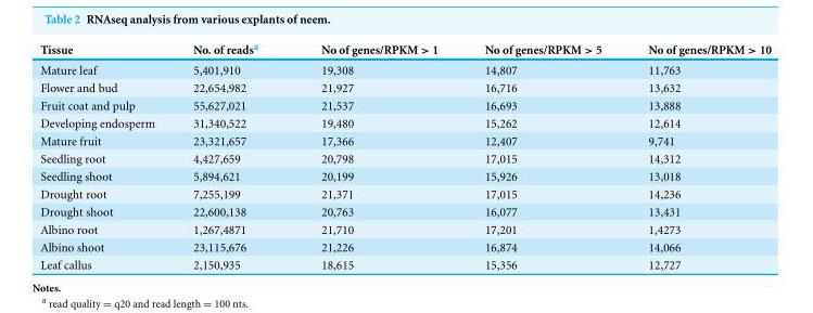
<table><thead><tr><td>Tissue</td><td>No. of reads<sup>a</sup></td><td>No of genes/RPKM &gt; 1</td><td>No of genes/RPKM &gt; 5</td><td>No of genes/RPKM &gt; 10</td></tr></thead><tbody><tr><td>Mature leaf</td><td>5,401,910</td><td>19,308</td><td>14,807</td><td>11,763</td></tr><tr><td>Flower and bud</td><td>22,654,982</td><td>21,927</td><td>16,716</td><td>13,632</td></tr><tr><td>Fruit coat and pulp</td><td>55,627,021</td><td>21,537</td><td>16,693</td><td>13,888</td></tr><tr><td>Developing endosperm</td><td>31,340,522</td><td>19,480</td><td>15,262</td><td>12,614</td></tr><tr><td>Mature fruit</td><td>23,321,657</td><td>17,366</td><td>12,407</td><td>9,741</td></tr><tr><td>Seedling root</td><td>4,427,659</td><td>20,798</td><td>17,015</td><td>14,312</td></tr><tr><td>Seedling shoot</td><td>5,894,621</td><td>20,199</td><td>15,926</td><td>13,018</td></tr><tr><td>Drought root</td><td>7,255,199</td><td>21,371</td><td>17,015</td><td>14,236</td></tr><tr><td>Drought shoot</td><td>22,600,138</td><td>20,763</td><td>16,077</td><td>13,431</td></tr><tr><td>Albino root</td><td>1,267,4871</td><td>21,710</td><td>17,201</td><td>1,4273</td></tr><tr><td>Albino shoot</td><td>23,115,676</td><td>21,226</td><td>16,874</td><td>14,066</td></tr><tr><td>Leaf callus</td><td>2,150,935</td><td>18,615</td><td>15,356</td><td>12,727</td></tr></tbody></table>